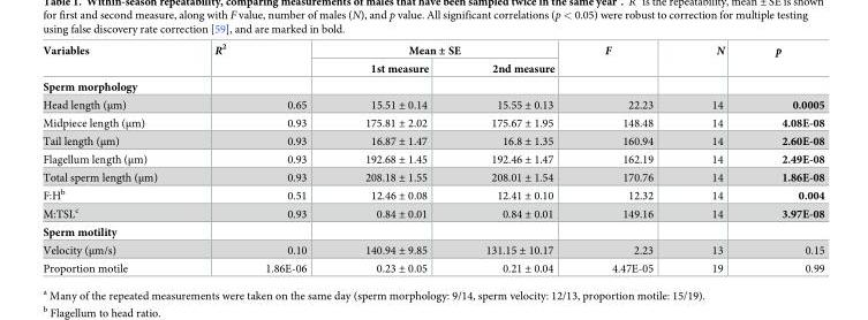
<table><thead><tr><td rowspan="2">Variables</td><td rowspan="2">R<sup>2</sup></td><td colspan="2">Mean ± SE</td><td rowspan="2">F</td><td rowspan="2">N</td><td rowspan="2">p</td></tr><tr><td>1st measure</td><td>2nd measure</td></tr></thead><tbody><tr><td colspan="7">Sperm morphology</td></tr><tr><td>Head length (μm)</td><td>0.65</td><td>15.51 ± 0.14</td><td>15.55 ± 0.13</td><td>22.23</td><td>14</td><td>0.0005</td></tr><tr><td>Midpiece length (μm)</td><td>0.93</td><td>175.81 ± 2.02</td><td>175.67 ± 1.95</td><td>148.48</td><td>14</td><td>4.08E-08</td></tr><tr><td>Tail length (μm)</td><td>0.93</td><td>16.87 ± 1.47</td><td>16.8 ± 1.35</td><td>160.94</td><td>14</td><td>2.60E-08</td></tr><tr><td>Flagellum length (μm)</td><td>0.93</td><td>192.68 ± 1.45</td><td>192.46 ± 1.47</td><td>162.19</td><td>14</td><td>2.49E-08</td></tr><tr><td>Total sperm length (μm)</td><td>0.93</td><td>208.18 ± 1.55</td><td>208.01 ± 1.54</td><td>170.76</td><td>14</td><td>1.86E-08</td></tr><tr><td>F:H<sup>b</sup></td><td>0.51</td><td>12.46 ± 0.08</td><td>12.41 ± 0.10</td><td>12.32</td><td>14</td><td>0.004</td></tr><tr><td>M:TSL<sup>c</sup></td><td>0.93</td><td>0.84 ± 0.01</td><td>0.84 ± 0.01</td><td>149.16</td><td>14</td><td>3.97E-08</td></tr><tr><td colspan="7">Sperm motility</td></tr><tr><td>Velocity (μm/s)</td><td>0.10</td><td>140.94 ± 9.85</td><td>131.15 ± 10.17</td><td>2.23</td><td>13</td><td>0.15</td></tr><tr><td>Proportion motile</td><td>1.86E-06</td><td>0.23 ± 0.05</td><td>0.21 ± 0.04</td><td>4.47E-05</td><td>19</td><td>0.99</td></tr></tbody></table>